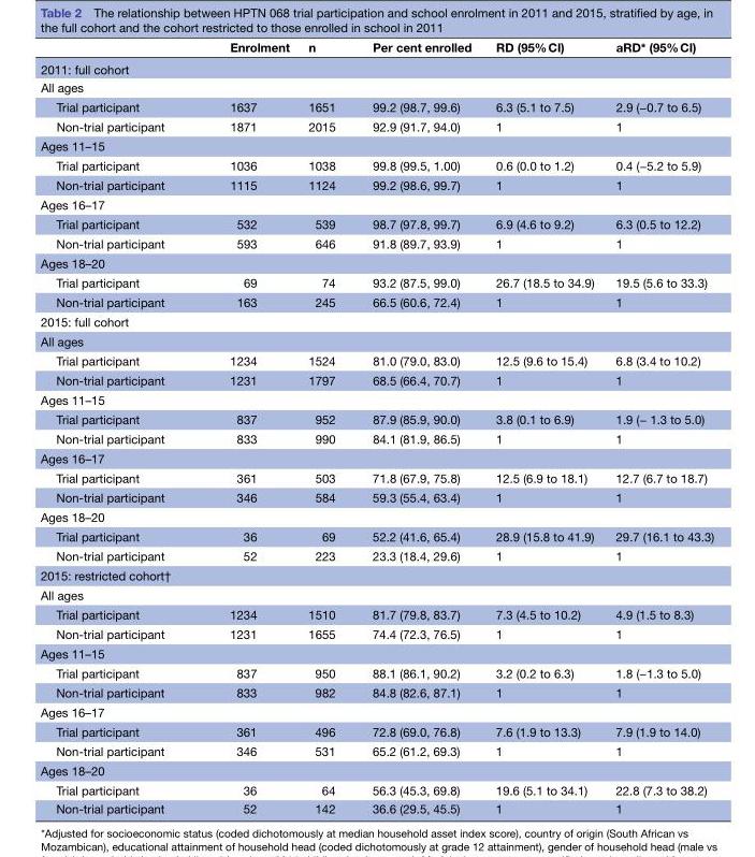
<table><thead><tr><td></td><td>Enrolment</td><td>n</td><td>Per cent enrolled</td><td>RD (95% CI)</td><td>aRD* (95% CI)</td></tr></thead><tbody><tr><td colspan="6">2011: full cohort</td></tr><tr><td colspan="6">All ages</td></tr><tr><td>Trial participant</td><td>1637</td><td>1651</td><td>99.2 (98.7, 99.6)</td><td>6.3 (5.1 to 7.5)</td><td>2.9 (−0.7 to 6.5)</td></tr><tr><td>Non-trial participant</td><td>1871</td><td>2015</td><td>92.9 (91.7, 94.0)</td><td>1</td><td>1</td></tr><tr><td colspan="6">Ages 11–15</td></tr><tr><td>Trial participant</td><td>1036</td><td>1038</td><td>99.8 (99.5, 1.00)</td><td>0.6 (0.0 to 1.2)</td><td>0.4 (−5.2 to 5.9)</td></tr><tr><td>Non-trial participant</td><td>1115</td><td>1124</td><td>99.2 (98.6, 99.7)</td><td>1</td><td>1</td></tr><tr><td colspan="6">Ages 16–17</td></tr><tr><td>Trial participant</td><td>532</td><td>539</td><td>98.7 (97.8, 99.7)</td><td>6.9 (4.6 to 9.2)</td><td>6.3 (0.5 to 12.2)</td></tr><tr><td>Non-trial participant</td><td>593</td><td>646</td><td>91.8 (89.7, 93.9)</td><td>1</td><td>1</td></tr><tr><td colspan="6">Ages 18–20</td></tr><tr><td>Trial participant</td><td>69</td><td>74</td><td>93.2 (87.5, 99.0)</td><td>26.7 (18.5 to 34.9)</td><td>19.5 (5.6 to 33.3)</td></tr><tr><td>Non-trial participant</td><td>163</td><td>245</td><td>66.5 (60.6, 72.4)</td><td>1</td><td>1</td></tr><tr><td colspan="6">2015: full cohort</td></tr><tr><td colspan="6">All ages</td></tr><tr><td>Trial participant</td><td>1234</td><td>1524</td><td>81.0 (79.0, 83.0)</td><td>12.5 (9.6 to 15.4)</td><td>6.8 (3.4 to 10.2)</td></tr><tr><td>Non-trial participant</td><td>1231</td><td>1797</td><td>68.5 (66.4, 70.7)</td><td>1</td><td>1</td></tr><tr><td colspan="6">Ages 11–15</td></tr><tr><td>Trial participant</td><td>837</td><td>952</td><td>87.9 (85.9, 90.0)</td><td>3.8 (0.1 to 6.9)</td><td>1.9 (− 1.3 to 5.0)</td></tr><tr><td>Non-trial participant</td><td>833</td><td>990</td><td>84.1 (81.9, 86.5)</td><td>1</td><td>1</td></tr><tr><td colspan="6">Ages 16–17</td></tr><tr><td>Trial participant</td><td>361</td><td>503</td><td>71.8 (67.9, 75.8)</td><td>12.5 (6.9 to 18.1)</td><td>12.7 (6.7 to 18.7)</td></tr><tr><td>Non-trial participant</td><td>346</td><td>584</td><td>59.3 (55.4, 63.4)</td><td>1</td><td>1</td></tr><tr><td colspan="6">Ages 18–20</td></tr><tr><td>Trial participant</td><td>36</td><td>69</td><td>52.2 (41.6, 65.4)</td><td>28.9 (15.8 to 41.9)</td><td>29.7 (16.1 to 43.3)</td></tr><tr><td>Non-trial participant</td><td>52</td><td>223</td><td>23.3 (18.4, 29.6)</td><td>1</td><td>1</td></tr><tr><td colspan="6">2015: restricted cohort†</td></tr><tr><td colspan="6">All ages</td></tr><tr><td>Trial participant</td><td>1234</td><td>1510</td><td>81.7 (79.8, 83.7)</td><td>7.3 (4.5 to 10.2)</td><td>4.9 (1.5 to 8.3)</td></tr><tr><td>Non-trial participant</td><td>1231</td><td>1655</td><td>74.4 (72.3, 76.5)</td><td>1</td><td>1</td></tr><tr><td colspan="6">Ages 11–15</td></tr><tr><td>Trial participant</td><td>837</td><td>950</td><td>88.1 (86.1, 90.2)</td><td>3.2 (0.2 to 6.3)</td><td>1.8 (−1.3 to 5.0)</td></tr><tr><td>Non-trial participant</td><td>833</td><td>982</td><td>84.8 (82.6, 87.1)</td><td>1</td><td>1</td></tr><tr><td colspan="6">Ages 16–17</td></tr><tr><td>Trial participant</td><td>361</td><td>496</td><td>72.8 (69.0, 76.8)</td><td>7.6 (1.9 to 13.3)</td><td>7.9 (1.9 to 14.0)</td></tr><tr><td>Non-trial participant</td><td>346</td><td>531</td><td>65.2 (61.2, 69.3)</td><td>1</td><td>1</td></tr><tr><td colspan="6">Ages 18–20</td></tr><tr><td>Trial participant</td><td>36</td><td>64</td><td>56.3 (45.3, 69.8)</td><td>19.6 (5.1 to 34.1)</td><td>22.8 (7.3 to 38.2)</td></tr><tr><td>Non-trial participant</td><td>52</td><td>142</td><td>36.6 (29.5, 45.5)</td><td>1</td><td>1</td></tr></tbody></table>